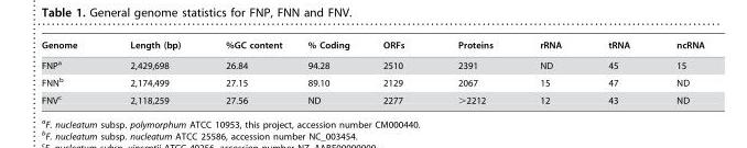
<table><thead><tr><td>Genome</td><td>Length (bp)</td><td>%GC content</td><td>% Coding</td><td>ORFs</td><td>Proteins</td><td>rRNA</td><td>tRNA</td><td>ncRNA</td></tr></thead><tbody><tr><td>FNP<sup>a</sup></td><td>2,429,698</td><td>26.84</td><td>94.28</td><td>2510</td><td>2391</td><td>ND</td><td>45</td><td>15</td></tr><tr><td>FNN<sup>b</sup></td><td>2,174,499</td><td>27.15</td><td>89.10</td><td>2129</td><td>2067</td><td>15</td><td>47</td><td>ND</td></tr><tr><td>FNV<sup>c</sup></td><td>2,118,259</td><td>27.56</td><td>ND</td><td>2277</td><td>&gt;2212</td><td>12</td><td>43</td><td>ND</td></tr></tbody></table>